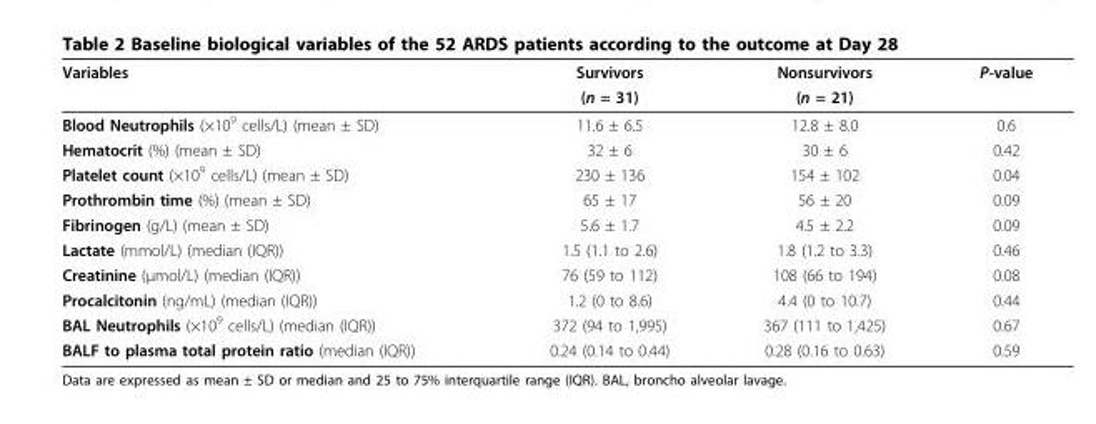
<table><thead><tr><td rowspan="2">Variables</td><td rowspan="2">Survivors (n = 31)</td><td rowspan="2">Nonsurvivors (n = 21)</td><td rowspan="2">P-value</td></tr><tr></tr></thead><tbody><tr><td>Blood Neutrophils (×10<sup>9</sup> cells/L) (mean ± SD)</td><td>11.6 ± 6.5</td><td>12.8 ± 8.0</td><td>0.6</td></tr><tr><td>Hematocrit (%) (mean ± SD)</td><td>32 ± 6</td><td>30 ± 6</td><td>0.42</td></tr><tr><td>Platelet count (×10<sup>9</sup> cells/L) (mean ± SD)</td><td>230 ± 136</td><td>154 ± 102</td><td>0.04</td></tr><tr><td>Prothrombin time (%) (mean ± SD)</td><td>65 ± 17</td><td>56 ± 20</td><td>0.09</td></tr><tr><td>Fibrinogen (g/L) (mean ± SD)</td><td>5.6 ± 1.7</td><td>4.5 ± 2.2</td><td>0.09</td></tr><tr><td>Lactate (mmol/L) (median (IQR))</td><td>1.5 (1.1 to 2.6)</td><td>1.8 (1.2 to 3.3)</td><td>0.46</td></tr><tr><td>Creatinine (μmol/L) (median (IQR))</td><td>76 (59 to 112)</td><td>108 (66 to 194)</td><td>0.08</td></tr><tr><td>Procalcitonin (ng/mL) (median (IQR))</td><td>1.2 (0 to 8.6)</td><td>4.4 (0 to 10.7)</td><td>0.44</td></tr><tr><td>BAL Neutrophils (×10<sup>9</sup> cells/L) (median (IQR))</td><td>372 (94 to 1,995)</td><td>367 (111 to 1,425)</td><td>0.67</td></tr><tr><td>BALF to plasma total protein ratio (median (IQR))</td><td>0.24 (0.14 to 0.44)</td><td>0.28 (0.16 to 0.63)</td><td>0.59</td></tr></tbody></table>